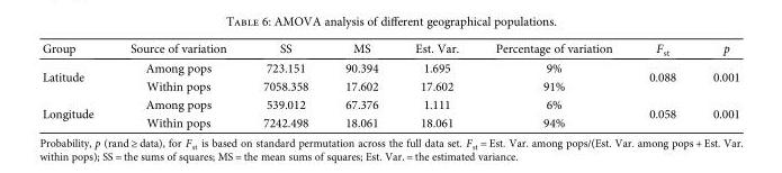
<table><thead><tr><td>Group</td><td>Source of variation</td><td>SS</td><td>MS</td><td>Est. Var.</td><td>Percentage of variation</td><td>F<sub>st</sub></td><td>p</td></tr></thead><tbody><tr><td rowspan="2">Latitude</td><td>Among pops</td><td>723.151</td><td>90.394</td><td>1.695</td><td>9%</td><td rowspan="2">0.088</td><td rowspan="2">0.001</td></tr><tr><td>Within pops</td><td>7058.358</td><td>17.602</td><td>17.602</td><td>91%</td></tr><tr><td rowspan="2">Longitude</td><td>Among pops</td><td>539.012</td><td>67.376</td><td>1.111</td><td>6%</td><td rowspan="2">0.058</td><td rowspan="2">0.001</td></tr><tr><td>Within pops</td><td>7242.498</td><td>18.061</td><td>18.061</td><td>94%</td></tr></tbody></table>